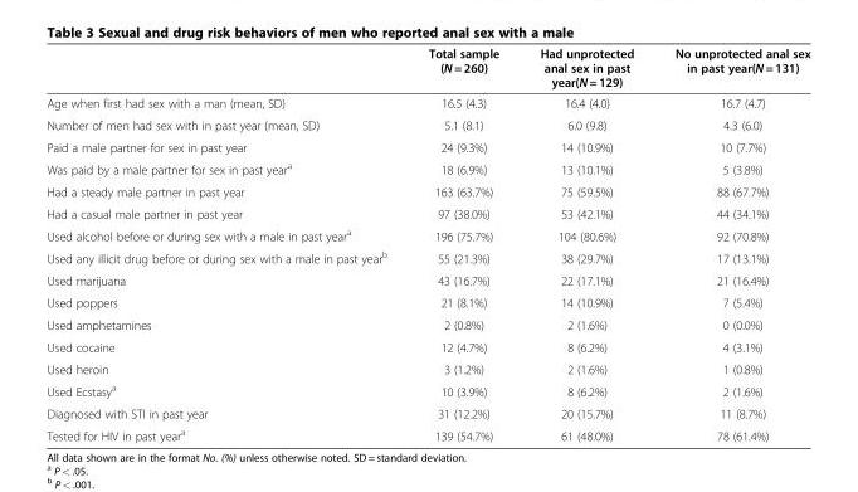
<table><thead><tr><td></td><td>Total sample (N = 260)</td><td>Had unprotected anal sex in past year(N = 129)</td><td>No unprotected anal sex in past year(N = 131)</td></tr></thead><tbody><tr><td>Age when first had sex with a man (mean, SD)</td><td>16.5 (4.3)</td><td>16.4 (4.0)</td><td>16.7 (4.7)</td></tr><tr><td>Number of men had sex with in past year (mean, SD)</td><td>5.1 (8.1)</td><td>6.0 (9.8)</td><td>4.3 (6.0)</td></tr><tr><td>Paid a male partner for sex in past year</td><td>24 (9.3%)</td><td>14 (10.9%)</td><td>10 (7.7%)</td></tr><tr><td>Was paid by a male partner for sex in past year<sup>a</sup></td><td>18 (6.9%)</td><td>13 (10.1%)</td><td>5 (3.8%)</td></tr><tr><td>Had a steady male partner in past year</td><td>163 (63.7%)</td><td>75 (59.5%)</td><td>88 (67.7%)</td></tr><tr><td>Had a casual male partner in past year</td><td>97 (38.0%)</td><td>53 (42.1%)</td><td>44 (34.1%)</td></tr><tr><td>Used alcohol before or during sex with a male in past year<sup>a</sup></td><td>196 (75.7%)</td><td>104 (80.6%)</td><td>92 (70.8%)</td></tr><tr><td>Used any illicit drug before or during sex with a male in past year<sup>b</sup></td><td>55 (21.3%)</td><td>38 (29.7%)</td><td>17 (13.1%)</td></tr><tr><td>Used marijuana</td><td>43 (16.7%)</td><td>22 (17.1%)</td><td>21 (16.4%)</td></tr><tr><td>Used poppers</td><td>21 (8.1%)</td><td>14 (10.9%)</td><td>7 (5.4%)</td></tr><tr><td>Used amphetamines</td><td>2 (0.8%)</td><td>2 (1.6%)</td><td>0 (0.0%)</td></tr><tr><td>Used cocaine</td><td>12 (4.7%)</td><td>8 (6.2%)</td><td>4 (3.1%)</td></tr><tr><td>Used heroin</td><td>3 (1.2%)</td><td>2 (1.6%)</td><td>1 (0.8%)</td></tr><tr><td>Used Ecstasy<sup>a</sup></td><td>10 (3.9%)</td><td>8 (6.2%)</td><td>2 (1.6%)</td></tr><tr><td>Diagnosed with STI in past year</td><td>31 (12.2%)</td><td>20 (15.7%)</td><td>11 (8.7%)</td></tr><tr><td>Tested for HIV in past year<sup>a</sup></td><td>139 (54.7%)</td><td>61 (48.0%)</td><td>78 (61.4%)</td></tr></tbody></table>